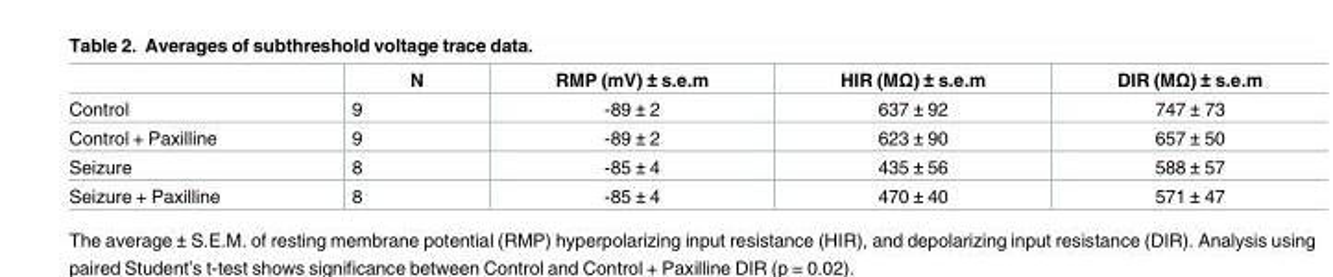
<table><thead><tr><td></td><td>N</td><td>RMP (mV) ± s.e.m</td><td>HIR (MΩ) ± s.e.m</td><td>DIR (MΩ) ± s.e.m</td></tr></thead><tbody><tr><td>Control</td><td>9</td><td>-89 ± 2</td><td>637 ± 92</td><td>747 ± 73</td></tr><tr><td>Control + Paxilline</td><td>9</td><td>-89 ± 2</td><td>623 ± 90</td><td>657 ± 50</td></tr><tr><td>Seizure</td><td>8</td><td>-85 ± 4</td><td>435 ± 56</td><td>588 ± 57</td></tr><tr><td>Seizure + Paxilline</td><td>8</td><td>-85 ± 4</td><td>470 ± 40</td><td>571 ± 47</td></tr></tbody></table>